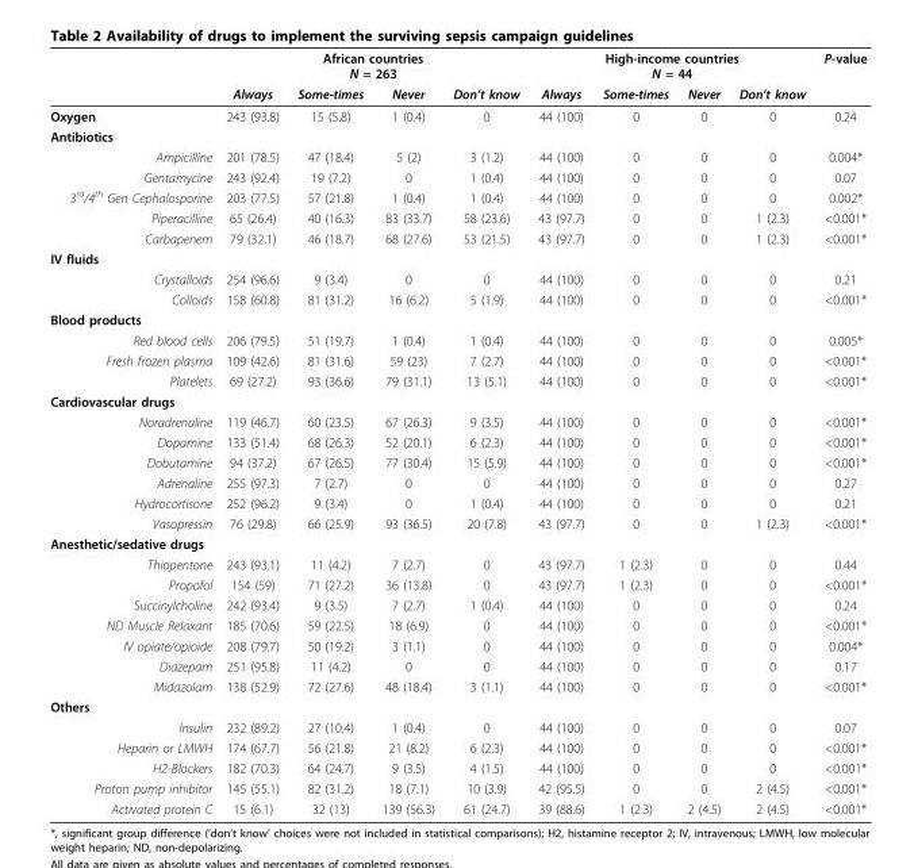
<table><thead><tr><td rowspan="2"></td><td colspan="4">African countries N = 263</td><td colspan="4">High-income countries N = 44</td><td rowspan="2">P-value</td></tr><tr><td>Always</td><td>Some-times</td><td>Never</td><td>Don’t know</td><td>Always</td><td>Some-times</td><td>Never</td><td>Don’t know</td></tr></thead><tbody><tr><td>Oxygen</td><td>243 (93.8)</td><td>15 (5.8)</td><td>1 (0.4)</td><td>0</td><td>44 (100)</td><td>0</td><td>0</td><td>0</td><td>0.24</td></tr><tr><td colspan="10">Antibiotics</td></tr><tr><td>Ampicilline</td><td>201 (78.5)</td><td>47 (18.4)</td><td>5 (2)</td><td>3 (1.2)</td><td>44 (100)</td><td>0</td><td>0</td><td>0</td><td>0.004*</td></tr><tr><td>Gentamycine</td><td>243 (92.4)</td><td>19 (7.2)</td><td>0</td><td>1 (0.4)</td><td>44 (100)</td><td>0</td><td>0</td><td>0</td><td>0.07</td></tr><tr><td>3<sup>rd</sup>/4<sup>th</sup> Gen Cephalosporine</td><td>203 (77.5)</td><td>57 (21.8)</td><td>1 (0.4)</td><td>1 (0.4)</td><td>44 (100)</td><td>0</td><td>0</td><td>0</td><td>0.002*</td></tr><tr><td>Piperacilline</td><td>65 (26.4)</td><td>40 (16.3)</td><td>83 (33.7)</td><td>58 (23.6)</td><td>43 (97.7)</td><td>0</td><td>0</td><td>1 (2.3)</td><td>&lt;0.001*</td></tr><tr><td>Carbapenem</td><td>79 (32.1)</td><td>46 (18.7)</td><td>68 (27.6)</td><td>53 (21.5)</td><td>43 (97.7)</td><td>0</td><td>0</td><td>1 (2.3)</td><td>&lt;0.001*</td></tr><tr><td colspan="10">IV fluids</td></tr><tr><td>Crystalloids</td><td>254 (96.6)</td><td>9 (3.4)</td><td>0</td><td>0</td><td>44 (100)</td><td>0</td><td>0</td><td>0</td><td>0.21</td></tr><tr><td>Colloids</td><td>158 (60.8)</td><td>81 (31.2)</td><td>16 (6.2)</td><td>5 (1.9)</td><td>44 (100)</td><td>0</td><td>0</td><td>0</td><td>&lt;0.001*</td></tr><tr><td colspan="10">Blood products</td></tr><tr><td>Red blood cells</td><td>206 (79.5)</td><td>51 (19.7)</td><td>1 (0.4)</td><td>1 (0.4)</td><td>44 (100)</td><td>0</td><td>0</td><td>0</td><td>0.005*</td></tr><tr><td>Fresh frozen plasma</td><td>109 (42.6)</td><td>81 (31.6)</td><td>59 (23)</td><td>7 (2.7)</td><td>44 (100)</td><td>0</td><td>0</td><td>0</td><td>&lt;0.001*</td></tr><tr><td>Platelets</td><td>69 (27.2)</td><td>93 (36.6)</td><td>79 (31.1)</td><td>13 (5.1)</td><td>44 (100)</td><td>0</td><td>0</td><td>0</td><td>&lt;0.001*</td></tr><tr><td colspan="10">Cardiovascular drugs</td></tr><tr><td>Noradrenaline</td><td>119 (46.7)</td><td>60 (23.5)</td><td>67 (26.3)</td><td>9 (3.5)</td><td>44 (100)</td><td>0</td><td>0</td><td>0</td><td>&lt;0.001*</td></tr><tr><td>Dopamine</td><td>133 (51.4)</td><td>68 (26.3)</td><td>52 (20.1)</td><td>6 (2.3)</td><td>44 (100)</td><td>0</td><td>0</td><td>0</td><td>&lt;0.001*</td></tr><tr><td>Dobutamine</td><td>94 (37.2)</td><td>67 (26.5)</td><td>77 (30.4)</td><td>15 (5.9)</td><td>44 (100)</td><td>0</td><td>0</td><td>0</td><td>&lt;0.001*</td></tr><tr><td>Adrenaline</td><td>255 (97.3)</td><td>7 (2.7)</td><td>0</td><td>0</td><td>44 (100)</td><td>0</td><td>0</td><td>0</td><td>0.27</td></tr><tr><td>Hydrocortisone</td><td>252 (96.2)</td><td>9 (3.4)</td><td>0</td><td>1 (0.4)</td><td>44 (100)</td><td>0</td><td>0</td><td>0</td><td>0.21</td></tr><tr><td>Vasopressin</td><td>76 (29.8)</td><td>66 (25.9)</td><td>93 (36.5)</td><td>20 (7.8)</td><td>43 (97.7)</td><td>0</td><td>0</td><td>1 (2.3)</td><td>&lt;0.001*</td></tr><tr><td colspan="10">Anesthetic/sedative drugs</td></tr><tr><td>Thiopentone</td><td>243 (93.1)</td><td>11 (4.2)</td><td>7 (2.7)</td><td>0</td><td>43 (97.7)</td><td>1 (2.3)</td><td>0</td><td>0</td><td>0.44</td></tr><tr><td>Propofol</td><td>154 (59)</td><td>71 (27.2)</td><td>36 (13.8)</td><td>0</td><td>43 (97.7)</td><td>1 (2.3)</td><td>0</td><td>0</td><td>&lt;0.001*</td></tr><tr><td>Succinylcholine</td><td>242 (93.4)</td><td>9 (3.5)</td><td>7 (2.7)</td><td>1 (0.4)</td><td>44 (100)</td><td>0</td><td>0</td><td>0</td><td>0.24</td></tr><tr><td>ND Muscle Relaxant</td><td>185 (70.6)</td><td>59 (22.5)</td><td>18 (6.9)</td><td>0</td><td>44 (100)</td><td>0</td><td>0</td><td>0</td><td>&lt;0.001*</td></tr><tr><td>IV opiate/opioide</td><td>208 (79.7)</td><td>50 (19.2)</td><td>3 (1.1)</td><td>0</td><td>44 (100)</td><td>0</td><td>0</td><td>0</td><td>0.004*</td></tr><tr><td>Diazepam</td><td>251 (95.8)</td><td>11 (4.2)</td><td>0</td><td>0</td><td>44 (100)</td><td>0</td><td>0</td><td>0</td><td>0.17</td></tr><tr><td>Midazolam</td><td>138 (52.9)</td><td>72 (27.6)</td><td>48 (18.4)</td><td>3 (1.1)</td><td>44 (100)</td><td>0</td><td>0</td><td>0</td><td>&lt;0.001*</td></tr><tr><td colspan="10">Others</td></tr><tr><td>Insulin</td><td>232 (89.2)</td><td>27 (10.4)</td><td>1 (0.4)</td><td>0</td><td>44 (100)</td><td>0</td><td>0</td><td>0</td><td>0.07</td></tr><tr><td>Heparin or LMWH</td><td>174 (67.7)</td><td>56 (21.8)</td><td>21 (8.2)</td><td>6 (2.3)</td><td>44 (100)</td><td>0</td><td>0</td><td>0</td><td>&lt;0.001*</td></tr><tr><td>H2-Blockers</td><td>182 (70.3)</td><td>64 (24.7)</td><td>9 (3.5)</td><td>4 (1.5)</td><td>44 (100)</td><td>0</td><td>0</td><td>0</td><td>&lt;0.001*</td></tr><tr><td>Proton pump inhibitor</td><td>145 (55.1)</td><td>82 (31.2)</td><td>18 (7.1)</td><td>10 (3.9)</td><td>42 (95.5)</td><td>0</td><td>0</td><td>2 (4.5)</td><td>&lt;0.001*</td></tr><tr><td>Activated protein C</td><td>15 (6.1)</td><td>32 (13)</td><td>139 (56.3)</td><td>61 (24.7)</td><td>39 (88.6)</td><td>1 (2.3)</td><td>2 (4.5)</td><td>2 (4.5)</td><td>&lt;0.001*</td></tr></tbody></table>